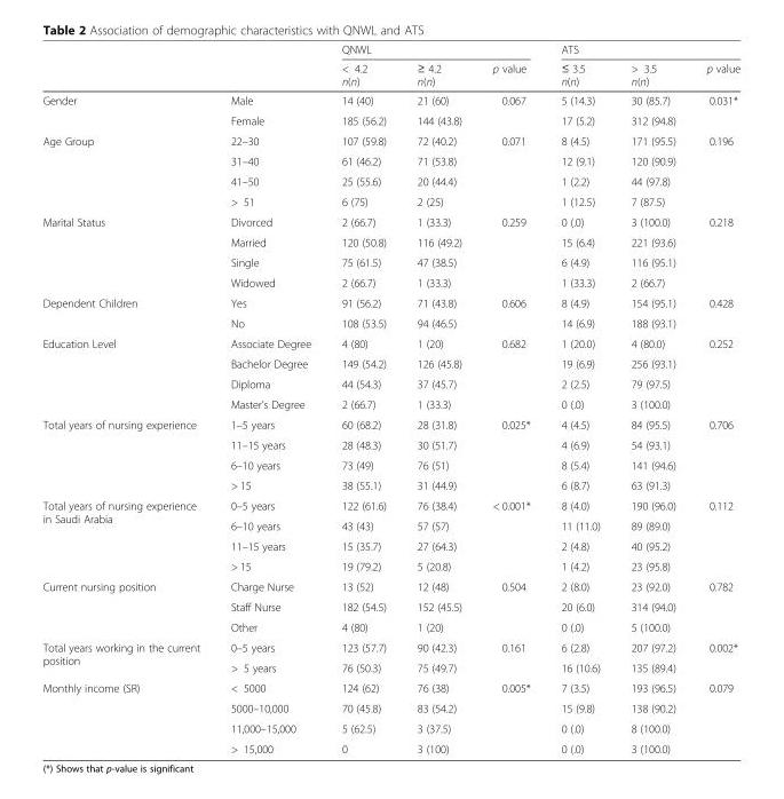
<table><thead><tr><td rowspan="2"></td><td rowspan="2"></td><td colspan="3">QNWL</td><td colspan="3">ATS</td></tr><tr><td>&lt; 4.2 n(n)</td><td>≥ 4.2 n(n)</td><td>p value</td><td>≤ 3.5 n(n)</td><td>&gt; 3.5 n(n)</td><td>p value</td></tr></thead><tbody><tr><td rowspan="2">Gender</td><td>Male</td><td>14 (40)</td><td>21 (60)</td><td rowspan="2">0.067</td><td>5 (14.3)</td><td>30 (85.7)</td><td rowspan="2">0.031*</td></tr><tr><td>Female</td><td>185 (56.2)</td><td>144 (43.8)</td><td>17 (5.2)</td><td>312 (94.8)</td></tr><tr><td rowspan="4">Age Group</td><td>22–30</td><td>107 (59.8)</td><td>72 (40.2)</td><td rowspan="4">0.071</td><td>8 (4.5)</td><td>171 (95.5)</td><td rowspan="4">0.196</td></tr><tr><td>31–40</td><td>61 (46.2)</td><td>71 (53.8)</td><td>12 (9.1)</td><td>120 (90.9)</td></tr><tr><td>41–50</td><td>25 (55.6)</td><td>20 (44.4)</td><td>1 (2.2)</td><td>44 (97.8)</td></tr><tr><td>&gt; 51</td><td>6 (75)</td><td>2 (25)</td><td>1 (12.5)</td><td>7 (87.5)</td></tr><tr><td rowspan="4">Marital Status</td><td>Divorced</td><td>2 (66.7)</td><td>1 (33.3)</td><td rowspan="4">0.259</td><td>0 (.0)</td><td>3 (100.0)</td><td rowspan="4">0.218</td></tr><tr><td>Married</td><td>120 (50.8)</td><td>116 (49.2)</td><td>15 (6.4)</td><td>221 (93.6)</td></tr><tr><td>Single</td><td>75 (61.5)</td><td>47 (38.5)</td><td>6 (4.9)</td><td>116 (95.1)</td></tr><tr><td>Widowed</td><td>2 (66.7)</td><td>1 (33.3)</td><td>1 (33.3)</td><td>2 (66.7)</td></tr><tr><td rowspan="2">Dependent Children</td><td>Yes</td><td>91 (56.2)</td><td>71 (43.8)</td><td rowspan="2">0.606</td><td>8 (4.9)</td><td>154 (95.1)</td><td rowspan="2">0.428</td></tr><tr><td>No</td><td>108 (53.5)</td><td>94 (46.5)</td><td>14 (6.9)</td><td>188 (93.1)</td></tr><tr><td rowspan="4">Education Level</td><td>Associate Degree</td><td>4 (80)</td><td>1 (20)</td><td rowspan="4">0.682</td><td>1 (20.0)</td><td>4 (80.0)</td><td rowspan="4">0.252</td></tr><tr><td>Bachelor Degree</td><td>149 (54.2)</td><td>126 (45.8)</td><td>19 (6.9)</td><td>256 (93.1)</td></tr><tr><td>Diploma</td><td>44 (54.3)</td><td>37 (45.7)</td><td>2 (2.5)</td><td>79 (97.5)</td></tr><tr><td>Master’s Degree</td><td>2 (66.7)</td><td>1 (33.3)</td><td>0 (.0)</td><td>3 (100.0)</td></tr><tr><td rowspan="4">Total years of nursing experience</td><td>1–5 years</td><td>60 (68.2)</td><td>28 (31.8)</td><td rowspan="4">0.025*</td><td>4 (4.5)</td><td>84 (95.5)</td><td rowspan="4">0.706</td></tr><tr><td>11–15 years</td><td>28 (48.3)</td><td>30 (51.7)</td><td>4 (6.9)</td><td>54 (93.1)</td></tr><tr><td>6–10 years</td><td>73 (49)</td><td>76 (51)</td><td>8 (5.4)</td><td>141 (94.6)</td></tr><tr><td>&gt; 15</td><td>38 (55.1)</td><td>31 (44.9)</td><td>6 (8.7)</td><td>63 (91.3)</td></tr><tr><td rowspan="4">Total years of nursing experience in Saudi Arabia</td><td>0–5 years</td><td>122 (61.6)</td><td>76 (38.4)</td><td rowspan="4">&lt; 0.001*</td><td>8 (4.0)</td><td>190 (96.0)</td><td rowspan="4">0.112</td></tr><tr><td>6–10 years</td><td>43 (43)</td><td>57 (57)</td><td>11 (11.0)</td><td>89 (89.0)</td></tr><tr><td>11–15 years</td><td>15 (35.7)</td><td>27 (64.3)</td><td>2 (4.8)</td><td>40 (95.2)</td></tr><tr><td>&gt; 15</td><td>19 (79.2)</td><td>5 (20.8)</td><td>1 (4.2)</td><td>23 (95.8)</td></tr><tr><td rowspan="3">Current nursing position</td><td>Charge Nurse</td><td>13 (52)</td><td>12 (48)</td><td rowspan="3">0.504</td><td>2 (8.0)</td><td>23 (92.0)</td><td rowspan="3">0.782</td></tr><tr><td>Staff Nurse</td><td>182 (54.5)</td><td>152 (45.5)</td><td>20 (6.0)</td><td>314 (94.0)</td></tr><tr><td>Other</td><td>4 (80)</td><td>1 (20)</td><td>0 (.0)</td><td>5 (100.0)</td></tr><tr><td rowspan="2">Total years working in the current position</td><td>0–5 years</td><td>123 (57.7)</td><td>90 (42.3)</td><td rowspan="2">0.161</td><td>6 (2.8)</td><td>207 (97.2)</td><td rowspan="2">0.002*</td></tr><tr><td>&gt; 5 years</td><td>76 (50.3)</td><td>75 (49.7)</td><td>16 (10.6)</td><td>135 (89.4)</td></tr><tr><td rowspan="4">Monthly income (SR)</td><td>&lt; 5000</td><td>124 (62)</td><td>76 (38)</td><td rowspan="4">0.005*</td><td>7 (3.5)</td><td>193 (96.5)</td><td rowspan="4">0.079</td></tr><tr><td>5000–10,000</td><td>70 (45.8)</td><td>83 (54.2)</td><td>15 (9.8)</td><td>138 (90.2)</td></tr><tr><td>11,000–15,000</td><td>5 (62.5)</td><td>3 (37.5)</td><td>0 (.0)</td><td>8 (100.0)</td></tr><tr><td>&gt; 15,000</td><td>0</td><td>3 (100)</td><td>0 (.0)</td><td>3 (100.0)</td></tr></tbody></table>